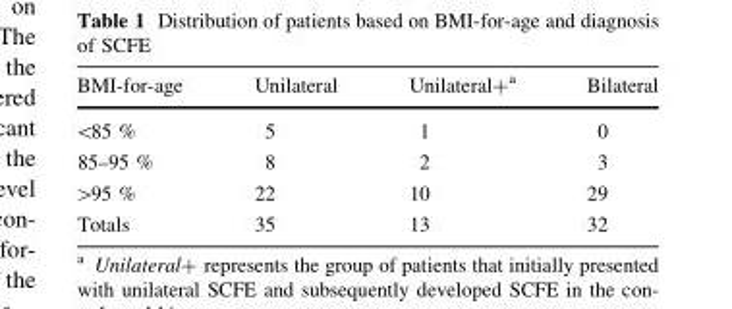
<table><thead><tr><td>BMI-for-age</td><td>Unilateral</td><td>Unilateral+<sup>a</sup></td><td>Bilateral</td></tr></thead><tbody><tr><td>&lt;85 %</td><td>5</td><td>1</td><td>0</td></tr><tr><td>85–95 %</td><td>8</td><td>2</td><td>3</td></tr><tr><td>&gt;95 %</td><td>22</td><td>10</td><td>29</td></tr><tr><td>Totals</td><td>35</td><td>13</td><td>32</td></tr></tbody></table>